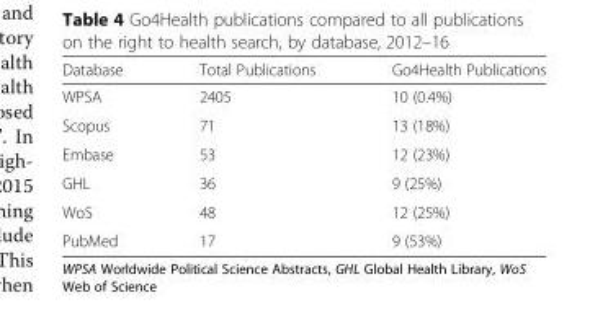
<table><thead><tr><td>Database</td><td>Total Publications</td><td>Go4Health Publications</td></tr></thead><tbody><tr><td>WPSA</td><td>2405</td><td>10 (0.4%)</td></tr><tr><td>Scopus</td><td>71</td><td>13 (18%)</td></tr><tr><td>Embase</td><td>53</td><td>12 (23%)</td></tr><tr><td>GHL</td><td>36</td><td>9 (25%)</td></tr><tr><td>WoS</td><td>48</td><td>12 (25%)</td></tr><tr><td>PubMed</td><td>17</td><td>9 (53%)</td></tr></tbody></table>